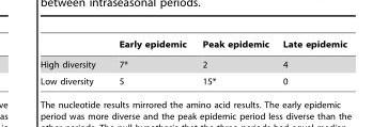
<table><thead><tr><td></td><td>Early epidemic</td><td>Peak epidemic</td><td>Late epidemic</td></tr></thead><tbody><tr><td>High diversity</td><td>7*</td><td>2</td><td>4</td></tr><tr><td>Low diversity</td><td>5</td><td>15*</td><td>0</td></tr></tbody></table>